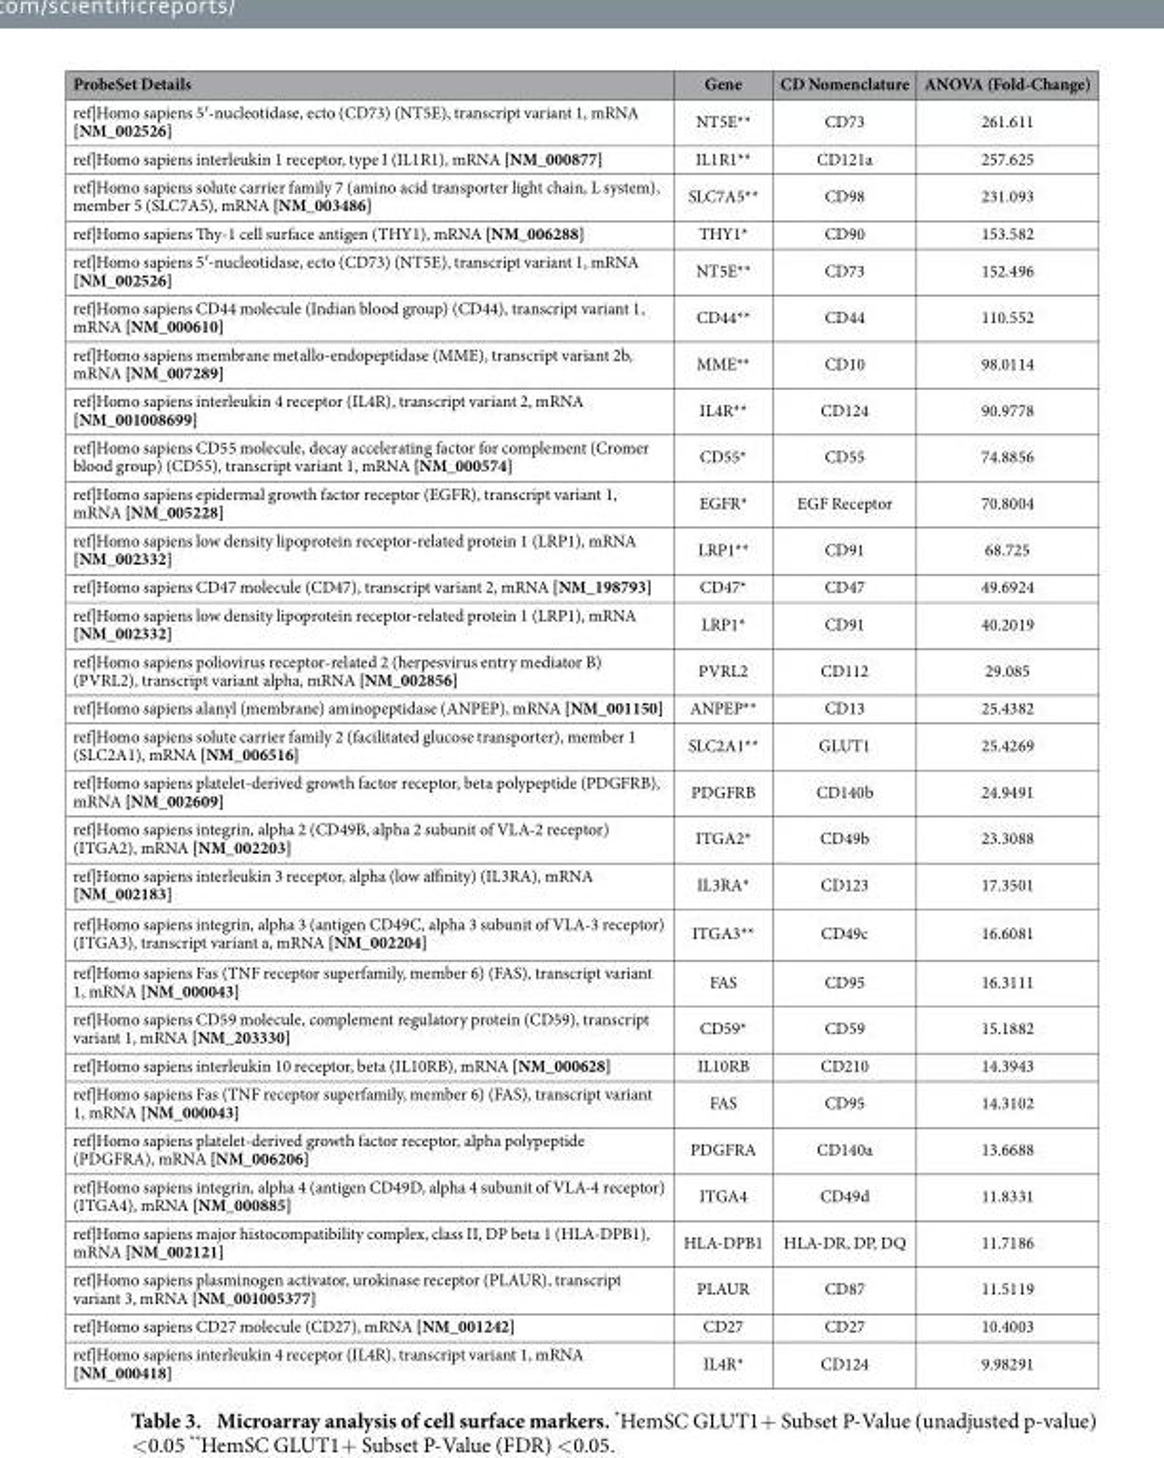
<table><thead><tr><td>ProbeSet Details</td><td>Gene</td><td>CD Nomenclature</td><td>ANOVA (Fold-Change)</td></tr></thead><tbody><tr><td>ref|Homo sapiens 5′ -nucleotidase, ecto (CD73) (NT5E), transcript variant 1, mRNA [NM_002526]</td><td>NT5E**</td><td>CD73</td><td>261.611</td></tr><tr><td>ref|Homo sapiens interleukin 1 receptor, type I (IL1R1), mRNA [NM_000877]</td><td>IL1R1**</td><td>CD121a</td><td>257.625</td></tr><tr><td>ref|Homo sapiens solute carrier family 7 (amino acid transporter light chain, L system), member 5 (SLC7A5), mRNA [NM_003486]</td><td>SLC7A5**</td><td>CD98</td><td>231.093</td></tr><tr><td>ref|Homo sapiens Thy-1 cell surface antigen (THY1), mRNA [NM_006288]</td><td>THY1*</td><td>CD90</td><td>153.582</td></tr><tr><td>ref|Homo sapiens 5′ -nucleotidase, ecto (CD73) (NT5E), transcript variant 1, mRNA [NM_002526]</td><td>NT5E**</td><td>CD73</td><td>152.496</td></tr><tr><td>ref|Homo sapiens CD44 molecule (Indian blood group) (CD44), transcript variant 1, mRNA [NM_000610]</td><td>CD44**</td><td>CD44</td><td>110.552</td></tr><tr><td>ref|Homo sapiens membrane metallo-endopeptidase (MME), transcript variant 2b, mRNA [NM_007289]</td><td>MME**</td><td>CD10</td><td>98.0114</td></tr><tr><td>ref|Homo sapiens interleukin 4 receptor (IL4R), transcript variant 2, mRNA [NM_001008699]</td><td>IL4R**</td><td>CD124</td><td>90.9778</td></tr><tr><td>ref|Homo sapiens CD55 molecule, decay accelerating factor for complement (Cromer blood group) (CD55), transcript variant 1, mRNA [NM_000574]</td><td>CD55*</td><td>CD55</td><td>74.8856</td></tr><tr><td>ref|Homo sapiens epidermal growth factor receptor (EGFR), transcript variant 1, mRNA [NM_005228]</td><td>EGFR*</td><td>EGF Receptor</td><td>70.8004</td></tr><tr><td>ref|Homo sapiens low density lipoprotein receptor-related protein 1 (LRP1), mRNA [NM_002332]</td><td>LRP1**</td><td>CD91</td><td>68.725</td></tr><tr><td>ref|Homo sapiens CD47 molecule (CD47), transcript variant 2, mRNA [NM_198793]</td><td>CD47*</td><td>CD47</td><td>49.6924</td></tr><tr><td>ref|Homo sapiens low density lipoprotein receptor-related protein 1 (LRP1), mRNA [NM_002332]</td><td>LRP1*</td><td>CD91</td><td>40.2019</td></tr><tr><td>ref|Homo sapiens poliovirus receptor-related 2 (herpesvirus entry mediator B) (PVRL2), transcript variant alpha, mRNA [NM_002856]</td><td>PVRL2</td><td>CD112</td><td>29.085</td></tr><tr><td>ref|Homo sapiens alanyl (membrane) aminopeptidase (ANPEP), mRNA [NM_001150]</td><td>ANPEP**</td><td>CD13</td><td>25.4382</td></tr><tr><td>ref|Homo sapiens solute carrier family 2 (facilitated glucose transporter), member 1 (SLC2A1), mRNA [NM_006516]</td><td>SLC2A1**</td><td>GLUT1</td><td>25.4269</td></tr><tr><td>ref|Homo sapiens platelet-derived growth factor receptor, beta polypeptide (PDGFRB), mRNA [NM_002609]</td><td>PDGFRB</td><td>CD140b</td><td>24.9491</td></tr><tr><td>ref|Homo sapiens integrin, alpha 2 (CD49B, alpha 2 subunit of VLA-2 receptor) (ITGA2), mRNA [NM_002203]</td><td>ITGA2*</td><td>CD49b</td><td>23.3088</td></tr><tr><td>ref|Homo sapiens interleukin 3 receptor, alpha (low affinity) (IL3RA), mRNA [NM_002183]</td><td>IL3RA*</td><td>CD123</td><td>17.3501</td></tr><tr><td>ref|Homo sapiens integrin, alpha 3 (antigen CD49C, alpha 3 subunit of VLA-3 receptor) (ITGA3), transcript variant a, mRNA [NM_002204]</td><td>ITGA3**</td><td>CD49c</td><td>16.6081</td></tr><tr><td>ref|Homo sapiens Fas (TNF receptor superfamily, member 6) (FAS), transcript variant 1, mRNA [NM_000043]</td><td>FAS</td><td>CD95</td><td>16.3111</td></tr><tr><td>ref|Homo sapiens CD59 molecule, complement regulatory protein (CD59), transcript variant 1, mRNA [NM_203330]</td><td>CD59*</td><td>CD59</td><td>15.1882</td></tr><tr><td>ref|Homo sapiens interleukin 10 receptor, beta (IL10RB), mRNA [NM_000628]</td><td>IL10RB</td><td>CD210</td><td>14.3943</td></tr><tr><td>ref|Homo sapiens Fas (TNF receptor superfamily, member 6) (FAS), transcript variant 1, mRNA [NM_000043]</td><td>FAS</td><td>CD95</td><td>14.3102</td></tr><tr><td>ref|Homo sapiens platelet-derived growth factor receptor, alpha polypeptide (PDGFRA), mRNA [NM_006206]</td><td>PDGFRA</td><td>CD140a</td><td>13.6688</td></tr><tr><td>ref|Homo sapiens integrin, alpha 4 (antigen CD49D, alpha 4 subunit of VLA-4 receptor) (ITGA4), mRNA [NM_000885]</td><td>ITGA4</td><td>CD49d</td><td>11.8331</td></tr><tr><td>ref|Homo sapiens major histocompatibility complex, class II, DP beta 1 (HLA-DPB1), mRNA [NM_002121]</td><td>HLA-DPB1</td><td>HLA-DR, DP, DQ</td><td>11.7186</td></tr><tr><td>ref|Homo sapiens plasminogen activator, urokinase receptor (PLAUR), transcript variant 3, mRNA [NM_001005377]</td><td>PLAUR</td><td>CD87</td><td>11.5119</td></tr><tr><td>ref|Homo sapiens CD27 molecule (CD27), mRNA [NM_001242]</td><td>CD27</td><td>CD27</td><td>10.4003</td></tr><tr><td>ref|Homo sapiens interleukin 4 receptor (IL4R), transcript variant 1, mRNA [NM_000418]</td><td>IL4R*</td><td>CD124</td><td>9.98291</td></tr></tbody></table>